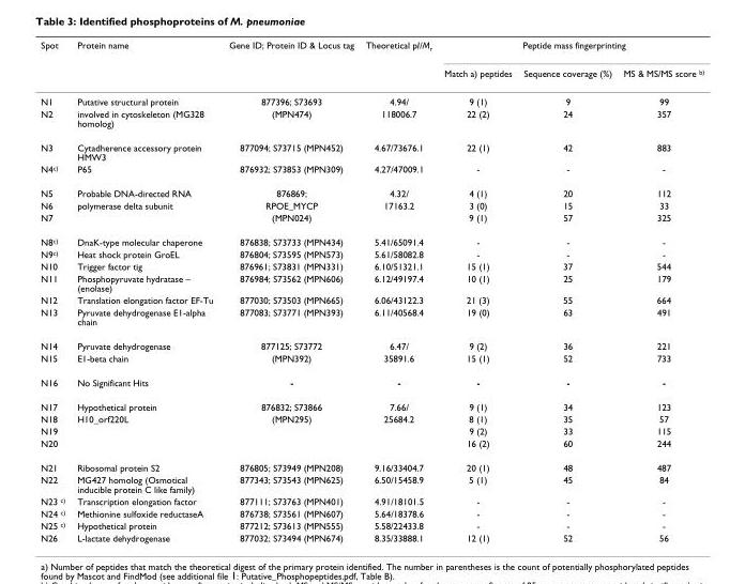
<table><thead><tr><td rowspan="2">Spot</td><td rowspan="2">Protein name</td><td rowspan="2">Gene ID; Protein ID &amp; Locus tag</td><td rowspan="2">Theoretical pI/M<sub>r</sub></td><td colspan="3">Peptide mass fingerprinting</td></tr><tr><td>Match a) peptides</td><td>Sequence coverage (%)</td><td>MS &amp; MS/MS score <sup>b)</sup></td></tr></thead><tbody><tr><td>N1</td><td>Putative structural protein</td><td>877396; S73693</td><td>4.94/</td><td>9 (1)</td><td>9</td><td>99</td></tr><tr><td>N2</td><td>involved in cytoskeleton (MG328 homolog)</td><td>(MPN474)</td><td>118006.7</td><td>22 (2)</td><td>24</td><td>357</td></tr><tr><td>N3</td><td>Cytadherence accessory protein HMW3</td><td>877094; S73715 (MPN452)</td><td>4.67/73676.1</td><td>22 (1)</td><td>42</td><td>883</td></tr><tr><td>N4<sup>c)</sup></td><td>P65</td><td>876932; S73853 (MPN309)</td><td>4.27/47009.1</td><td>-</td><td>-</td><td>-</td></tr><tr><td>N5</td><td>Probable DNA-directed RNA</td><td>876869;</td><td>4.32/</td><td>4 (1)</td><td>20</td><td>112</td></tr><tr><td>N6</td><td>polymerase delta subunit</td><td>RPOE_MYCP</td><td>17163.2</td><td>3 (0)</td><td>15</td><td>33</td></tr><tr><td>N7</td><td></td><td>(MPN024)</td><td></td><td>9 (1)</td><td>57</td><td>325</td></tr><tr><td>N8<sup>c)</sup></td><td>DnaK-type molecular chaperone</td><td>876838; S73733 (MPN434)</td><td>5.41/65091.4</td><td>-</td><td>-</td><td>-</td></tr><tr><td>N9<sup>c)</sup></td><td>Heat shock protein GroEL</td><td>876804; S73595 (MPN573)</td><td>5.61/58082.8</td><td>-</td><td>-</td><td>-</td></tr><tr><td>N10</td><td>Trigger factor tig</td><td>876961; S73831 (MPN331)</td><td>6.10/51321.1</td><td>15 (1)</td><td>37</td><td>544</td></tr><tr><td>N11</td><td>Phosphopyruvate hydratase – (enolase)</td><td>876984; S73562 (MPN606)</td><td>6.12/49197.4</td><td>10 (1)</td><td>25</td><td>179</td></tr><tr><td>N12</td><td>Translation elongation factor EF-Tu</td><td>877030; S73503 (MPN665)</td><td>6.06/43122.3</td><td>21 (3)</td><td>55</td><td>664</td></tr><tr><td>N13</td><td>Pyruvate dehydrogenase E1-alpha chain</td><td>877083; S73771 (MPN393)</td><td>6.11/40568.4</td><td>19 (0)</td><td>63</td><td>491</td></tr><tr><td>N14</td><td>Pyruvate dehydrogenase</td><td>877125; S73772</td><td>6.47/</td><td>9 (2)</td><td>36</td><td>221</td></tr><tr><td>N15</td><td>E1-beta chain</td><td>(MPN392)</td><td>35891.6</td><td>15 (1)</td><td>52</td><td>733</td></tr><tr><td>N16</td><td>No Significant Hits</td><td>-</td><td>-</td><td>-</td><td>-</td><td>-</td></tr><tr><td>N17</td><td>Hypothetical protein</td><td>876832; S73866</td><td>7.66/</td><td>9 (1)</td><td>34</td><td>123</td></tr><tr><td>N18</td><td>H10_orf220L</td><td>(MPN295)</td><td>25684.2</td><td>8 (1)</td><td>35</td><td>57</td></tr><tr><td>N19</td><td></td><td></td><td></td><td>9 (2)</td><td>33</td><td>115</td></tr><tr><td>N20</td><td></td><td></td><td></td><td>16 (2)</td><td>60</td><td>244</td></tr><tr><td>N21</td><td>Ribosomal protein S2</td><td>876805; S73949 (MPN208)</td><td>9.16/33404.7</td><td>20 (1)</td><td>48</td><td>487</td></tr><tr><td>N22</td><td>MG427 homolog (Osmotical inducible protein C like family)</td><td>877343; S73543 (MPN625)</td><td>6.50/15458.9</td><td>5 (1)</td><td>45</td><td>84</td></tr><tr><td>N23 <sup>c)</sup></td><td>Transcription elongation factor</td><td>877111; S73763 (MPN401)</td><td>4.91/18101.5</td><td>-</td><td>-</td><td>-</td></tr><tr><td>N24 <sup>c)</sup></td><td>Methionine sulfoxide reductaseA</td><td>876738; S73561 (MPN607)</td><td>5.64/18378.6</td><td>-</td><td>-</td><td>-</td></tr><tr><td>N25 <sup>c)</sup></td><td>Hypothetical protein</td><td>877212; S73613 (MPN555)</td><td>5.58/22433.8</td><td>-</td><td>-</td><td>-</td></tr><tr><td>N26</td><td>L-lactate dehydrogenase</td><td>877032; S73494 (MPN674)</td><td>8.35/33888.1</td><td>12 (1)</td><td>52</td><td>56</td></tr></tbody></table>